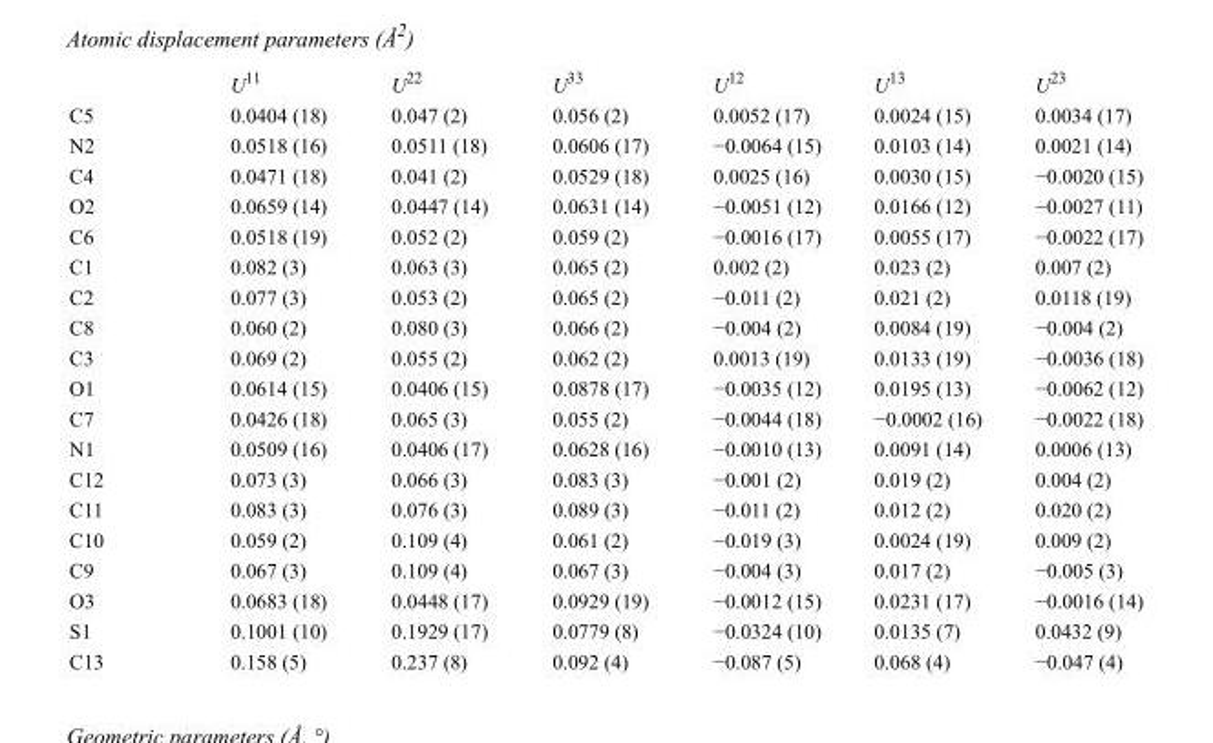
<table><thead><tr><td></td><td>U<sup>11</sup></td><td>U<sup>22</sup></td><td>U<sup>33</sup></td><td>U<sup>12</sup></td><td>U<sup>13</sup></td><td>U<sup>23</sup></td></tr></thead><tbody><tr><td>C5</td><td>0.0404 (18)</td><td>0.047 (2)</td><td>0.056 (2)</td><td>0.0052 (17)</td><td>0.0024 (15)</td><td>0.0034 (17)</td></tr><tr><td>N2</td><td>0.0518 (16)</td><td>0.0511 (18)</td><td>0.0606 (17)</td><td>−0.0064 (15)</td><td>0.0103 (14)</td><td>0.0021 (14)</td></tr><tr><td>C4</td><td>0.0471 (18)</td><td>0.041 (2)</td><td>0.0529 (18)</td><td>0.0025 (16)</td><td>0.0030 (15)</td><td>−0.0020 (15)</td></tr><tr><td>O2</td><td>0.0659 (14)</td><td>0.0447 (14)</td><td>0.0631 (14)</td><td>−0.0051 (12)</td><td>0.0166 (12)</td><td>−0.0027 (11)</td></tr><tr><td>C6</td><td>0.0518 (19)</td><td>0.052 (2)</td><td>0.059 (2)</td><td>−0.0016 (17)</td><td>0.0055 (17)</td><td>−0.0022 (17)</td></tr><tr><td>C1</td><td>0.082 (3)</td><td>0.063 (3)</td><td>0.065 (2)</td><td>0.002 (2)</td><td>0.023 (2)</td><td>0.007 (2)</td></tr><tr><td>C2</td><td>0.077 (3)</td><td>0.053 (2)</td><td>0.065 (2)</td><td>−0.011 (2)</td><td>0.021 (2)</td><td>0.0118 (19)</td></tr><tr><td>C8</td><td>0.060 (2)</td><td>0.080 (3)</td><td>0.066 (2)</td><td>−0.004 (2)</td><td>0.0084 (19)</td><td>−0.004 (2)</td></tr><tr><td>C3</td><td>0.069 (2)</td><td>0.055 (2)</td><td>0.062 (2)</td><td>0.0013 (19)</td><td>0.0133 (19)</td><td>−0.0036 (18)</td></tr><tr><td>O1</td><td>0.0614 (15)</td><td>0.0406 (15)</td><td>0.0878 (17)</td><td>−0.0035 (12)</td><td>0.0195 (13)</td><td>−0.0062 (12)</td></tr><tr><td>C7</td><td>0.0426 (18)</td><td>0.065 (3)</td><td>0.055 (2)</td><td>−0.0044 (18)</td><td>−0.0002 (16)</td><td>−0.0022 (18)</td></tr><tr><td>N1</td><td>0.0509 (16)</td><td>0.0406 (17)</td><td>0.0628 (16)</td><td>−0.0010 (13)</td><td>0.0091 (14)</td><td>0.0006 (13)</td></tr><tr><td>C12</td><td>0.073 (3)</td><td>0.066 (3)</td><td>0.083 (3)</td><td>−0.001 (2)</td><td>0.019 (2)</td><td>0.004 (2)</td></tr><tr><td>C11</td><td>0.083 (3)</td><td>0.076 (3)</td><td>0.089 (3)</td><td>−0.011 (2)</td><td>0.012 (2)</td><td>0.020 (2)</td></tr><tr><td>C10</td><td>0.059 (2)</td><td>0.109 (4)</td><td>0.061 (2)</td><td>−0.019 (3)</td><td>0.0024 (19)</td><td>0.009 (2)</td></tr><tr><td>C9</td><td>0.067 (3)</td><td>0.109 (4)</td><td>0.067 (3)</td><td>−0.004 (3)</td><td>0.017 (2)</td><td>−0.005 (3)</td></tr><tr><td>O3</td><td>0.0683 (18)</td><td>0.0448 (17)</td><td>0.0929 (19)</td><td>−0.0012 (15)</td><td>0.0231 (17)</td><td>−0.0016 (14)</td></tr><tr><td>S1</td><td>0.1001 (10)</td><td>0.1929 (17)</td><td>0.0779 (8)</td><td>−0.0324 (10)</td><td>0.0135 (7)</td><td>0.0432 (9)</td></tr><tr><td>C13</td><td>0.158 (5)</td><td>0.237 (8)</td><td>0.092 (4)</td><td>−0.087 (5)</td><td>0.068 (4)</td><td>−0.047 (4)</td></tr></tbody></table>